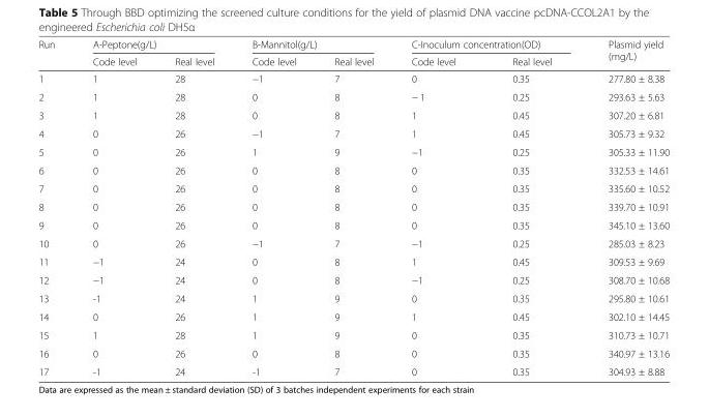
<table><thead><tr><td rowspan="2">Run</td><td colspan="2">A-Peptone(g/L)</td><td colspan="2">B-Mannitol(g/L)</td><td colspan="2">C-Inoculum concentration(OD)</td><td rowspan="2">Plasmid yield (mg/L)</td></tr><tr><td>Code level</td><td>Real level</td><td>Code level</td><td>Real level</td><td>Code level</td><td>Real level</td></tr></thead><tbody><tr><td>1</td><td>1</td><td>28</td><td>−1</td><td>7</td><td>0</td><td>0.35</td><td>277.80 ± 8.38</td></tr><tr><td>2</td><td>1</td><td>28</td><td>0</td><td>8</td><td>− 1</td><td>0.25</td><td>293.63 ± 5.63</td></tr><tr><td>3</td><td>1</td><td>28</td><td>0</td><td>8</td><td>1</td><td>0.45</td><td>307.20 ± 6.81</td></tr><tr><td>4</td><td>0</td><td>26</td><td>−1</td><td>7</td><td>1</td><td>0.45</td><td>305.73 ± 9.32</td></tr><tr><td>5</td><td>0</td><td>26</td><td>1</td><td>9</td><td>−1</td><td>0.25</td><td>305.33 ± 11.90</td></tr><tr><td>6</td><td>0</td><td>26</td><td>0</td><td>8</td><td>0</td><td>0.35</td><td>332.53 ± 14.61</td></tr><tr><td>7</td><td>0</td><td>26</td><td>0</td><td>8</td><td>0</td><td>0.35</td><td>335.60 ± 10.52</td></tr><tr><td>8</td><td>0</td><td>26</td><td>0</td><td>8</td><td>0</td><td>0.35</td><td>339.70 ± 10.91</td></tr><tr><td>9</td><td>0</td><td>26</td><td>0</td><td>8</td><td>0</td><td>0.35</td><td>345.10 ± 13.60</td></tr><tr><td>10</td><td>0</td><td>26</td><td>−1</td><td>7</td><td>−1</td><td>0.25</td><td>285.03 ± 8.23</td></tr><tr><td>11</td><td>−1</td><td>24</td><td>0</td><td>8</td><td>1</td><td>0.45</td><td>309.53 ± 9.69</td></tr><tr><td>12</td><td>−1</td><td>24</td><td>0</td><td>8</td><td>−1</td><td>0.25</td><td>308.70 ± 10.68</td></tr><tr><td>13</td><td>-1</td><td>24</td><td>1</td><td>9</td><td>0</td><td>0.35</td><td>295.80 ± 10.61</td></tr><tr><td>14</td><td>0</td><td>26</td><td>1</td><td>9</td><td>1</td><td>0.45</td><td>302.10 ± 14.45</td></tr><tr><td>15</td><td>1</td><td>28</td><td>1</td><td>9</td><td>0</td><td>0.35</td><td>310.73 ± 10.71</td></tr><tr><td>16</td><td>0</td><td>26</td><td>0</td><td>8</td><td>0</td><td>0.35</td><td>340.97 ± 13.16</td></tr><tr><td>17</td><td>-1</td><td>24</td><td>-1</td><td>7</td><td>0</td><td>0.35</td><td>304.93 ± 8.88</td></tr></tbody></table>